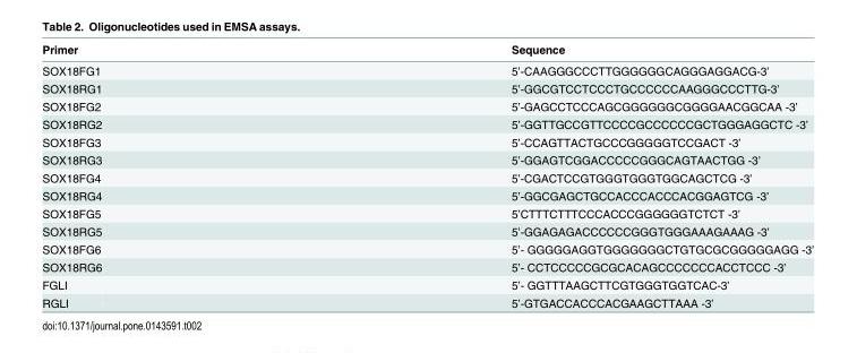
<table><thead><tr><td>Primer</td><td>Sequence</td></tr></thead><tbody><tr><td>SOX18FG1</td><td>5’-CAAGGGCCCTTGGGGGGCAGGGAGGACG-3’</td></tr><tr><td>SOX18RG1</td><td>5’-GGCGTCCTCCCTGCCCCCCAAGGGCCCTTG-3’</td></tr><tr><td>SOX18FG2</td><td>5’-GAGCCTCCCAGCGGGGGGCGGGGAACGGCAA -3’</td></tr><tr><td>SOX18RG2</td><td>5’-GGTTGCCGTTCCCCGCCCCCCGCTGGGAGGCTC -3’</td></tr><tr><td>SOX18FG3</td><td>5’-CCAGTTACTGCCCGGGGGTCCGACT -3’</td></tr><tr><td>SOX18RG3</td><td>5’-GGAGTCGGACCCCCGGGCAGTAACTGG -3’</td></tr><tr><td>SOX18FG4</td><td>5’-CGACTCCGTGGGTGGGTGGCAGCTCG -3’</td></tr><tr><td>SOX18RG4</td><td>5’-GGCGAGCTGCCACCCACCCACGGAGTCG -3’</td></tr><tr><td>SOX18FG5</td><td>5’CTTTCTTTCCCACCCGGGGGGTCTCT -3’</td></tr><tr><td>SOX18RG5</td><td>5’-GGAGAGACCCCCCGGGTGGGAAAGAAAG -3’</td></tr><tr><td>SOX18FG6</td><td>5’- GGGGGAGGTGGGGGGGCTGTGCGCGGGGGAGG -3’</td></tr><tr><td>SOX18RG6</td><td>5’- CCTCCCCCGCGCACAGCCCCCCCACCTCCC -3’</td></tr><tr><td>FGLI</td><td>5’- GGTTTAAGCTTCGTGGGTGGTCAC-3’</td></tr><tr><td>RGLI</td><td>5’-GTGACCACCCACGAAGCTTAAA -3’</td></tr></tbody></table>